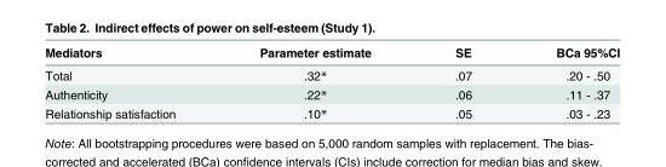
<table><thead><tr><td>Mediators</td><td>Parameter estimate</td><td>SE</td><td>BCa 95%CI</td></tr></thead><tbody><tr><td>Total</td><td>.32*</td><td>.07</td><td>.20 - .50</td></tr><tr><td>Authenticity</td><td>.22*</td><td>.06</td><td>.11 - .37</td></tr><tr><td>Relationship satisfaction</td><td>.10*</td><td>.05</td><td>.03 - .23</td></tr></tbody></table>